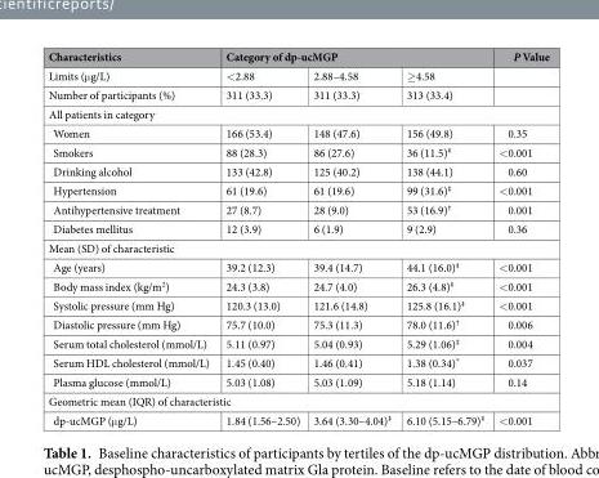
<table><thead><tr><td rowspan="2">Characteristics Limits (μg/L)</td><td colspan="3">Category of dp-ucMGP</td><td rowspan="2">P Value</td></tr><tr><td>&lt;2.88</td><td>2.88–4.58</td><td>≥4.58</td></tr></thead><tbody><tr><td>Number of participants (%)</td><td>311 (33.3)</td><td>311 (33.3)</td><td>313 (33.4)</td><td></td></tr><tr><td colspan="5">All patients in category</td></tr><tr><td>Women</td><td>166 (53.4)</td><td>148 (47.6)</td><td>156 (49.8)</td><td>0.35</td></tr><tr><td>Smokers</td><td>88 (28.3)</td><td>86 (27.6)</td><td>36 (11.5)<sup>‡</sup></td><td>&lt;0.001</td></tr><tr><td>Drinking alcohol</td><td>133 (42.8)</td><td>125 (40.2)</td><td>138 (44.1)</td><td>0.60</td></tr><tr><td>Hypertension</td><td>61 (19.6)</td><td>61 (19.6)</td><td>99 (31.6)<sup>‡</sup></td><td>&lt;0.001</td></tr><tr><td>Antihypertensive treatment</td><td>27 (8.7)</td><td>28 (9.0)</td><td>53 (16.9)<sup>†</sup></td><td>0.001</td></tr><tr><td>Diabetes mellitus</td><td>12 (3.9)</td><td>6 (1.9)</td><td>9 (2.9)</td><td>0.36</td></tr><tr><td colspan="5">Mean (SD) of characteristic</td></tr><tr><td>Age (years)</td><td>39.2 (12.3)</td><td>39.4 (14.7)</td><td>44.1 (16.0)<sup>‡</sup></td><td>&lt;0.001</td></tr><tr><td>Body mass index (kg/m<sup>2</sup>)</td><td>24.3 (3.8)</td><td>24.7 (4.0)</td><td>26.3 (4.8)<sup>‡</sup></td><td>&lt;0.001</td></tr><tr><td>Systolic pressure (mm Hg)</td><td>120.3 (13.0)</td><td>121.6 (14.8)</td><td>125.8 (16.1)<sup>‡</sup></td><td>&lt;0.001</td></tr><tr><td>Diastolic pressure (mm Hg)</td><td>75.7 (10.0)</td><td>75.3 (11.3)</td><td>78.0 (11.6)<sup>†</sup></td><td>0.006</td></tr><tr><td>Serum total cholesterol (mmol/L)</td><td>5.11 (0.97)</td><td>5.04 (0.93)</td><td>5.29 (1.06)<sup>‡</sup></td><td>0.004</td></tr><tr><td>Serum HDL cholesterol (mmol/L)</td><td>1.45 (0.40)</td><td>1.46 (0.41)</td><td>1.38 (0.34)*</td><td>0.037</td></tr><tr><td>Plasma glucose (mmol/L)</td><td>5.03 (1.08)</td><td>5.03 (1.09)</td><td>5.18 (1.14)</td><td>0.14</td></tr><tr><td colspan="5">Geometric mean (IQR) of characteristic</td></tr><tr><td>dp-ucMGP (μg/L)</td><td>1.84 (1.56–2.50)</td><td>3.64 (3.30–4.04)<sup>‡</sup></td><td>6.10 (5.15–6.79)<sup>‡</sup></td><td>&lt;0.001</td></tr></tbody></table>